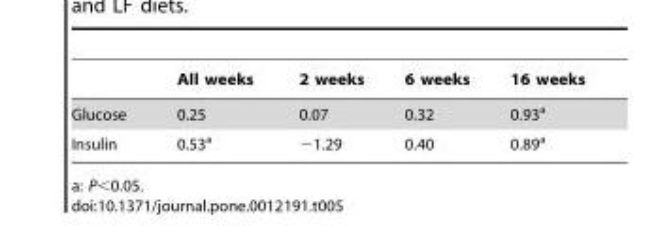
<table><thead><tr><td></td><td>All weeks</td><td>2 weeks</td><td>6 weeks</td><td>16 weeks</td></tr></thead><tbody><tr><td>Glucose</td><td>0.25</td><td>0.07</td><td>0.32</td><td>0.93<sup>a</sup></td></tr><tr><td>Insulin</td><td>0.53<sup>a</sup></td><td>−1.29</td><td>0.40</td><td>0.89<sup>a</sup></td></tr></tbody></table>